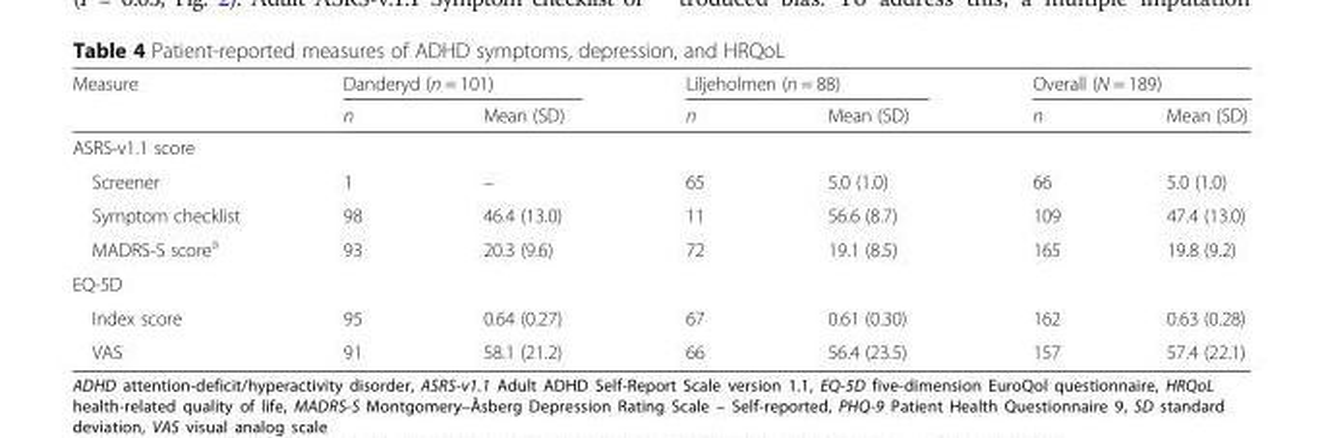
<table><thead><tr><td rowspan="2">Measure</td><td colspan="2">Danderyd (n = 101)</td><td colspan="2">Liljeholmen (n = 88)</td><td colspan="2">Overall (N = 189)</td></tr><tr><td>n</td><td>Mean (SD)</td><td>n</td><td>Mean (SD)</td><td>n</td><td>Mean (SD)</td></tr></thead><tbody><tr><td colspan="7">ASRS-v1.1 score</td></tr><tr><td>Screener</td><td>1</td><td>–</td><td>65</td><td>5.0 (1.0)</td><td>66</td><td>5.0 (1.0)</td></tr><tr><td>Symptom checklist</td><td>98</td><td>46.4 (13.0)</td><td>11</td><td>56.6 (8.7)</td><td>109</td><td>47.4 (13.0)</td></tr><tr><td>MADRS-S score<sup>a</sup></td><td>93</td><td>20.3 (9.6)</td><td>72</td><td>19.1 (8.5)</td><td>165</td><td>19.8 (9.2)</td></tr><tr><td colspan="7">EQ-5D</td></tr><tr><td>Index score</td><td>95</td><td>0.64 (0.27)</td><td>67</td><td>0.61 (0.30)</td><td>162</td><td>0.63 (0.28)</td></tr><tr><td>VAS</td><td>91</td><td>58.1 (21.2)</td><td>66</td><td>56.4 (23.5)</td><td>157</td><td>57.4 (22.1)</td></tr></tbody></table>